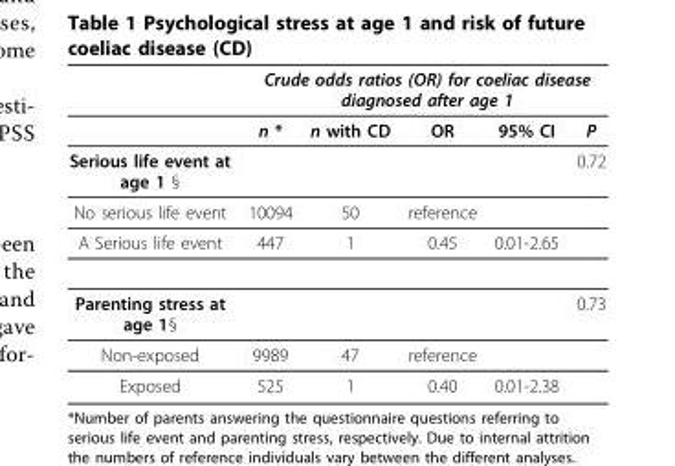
<table><thead><tr><td rowspan="2"></td><td colspan="5">Crude odds ratios (OR) for coeliac disease diagnosed after age 1</td></tr><tr><td>n *</td><td>n with CD</td><td>OR</td><td>95% CI</td><td>P</td></tr></thead><tbody><tr><td>Serious life event at age 1 §</td><td></td><td></td><td></td><td></td><td>0.72</td></tr><tr><td>No serious life event</td><td>10094</td><td>50</td><td>reference</td><td></td><td></td></tr><tr><td>A Serious life event</td><td>447</td><td>1</td><td>0.45</td><td>0.01-2.65</td><td></td></tr><tr><td>Parenting stress at age 1§</td><td></td><td></td><td></td><td></td><td>0.73</td></tr><tr><td>Non-exposed</td><td>9989</td><td>47</td><td>reference</td><td></td><td></td></tr><tr><td>Exposed</td><td>525</td><td>1</td><td>0.40</td><td>0.01-2.38</td><td></td></tr></tbody></table>